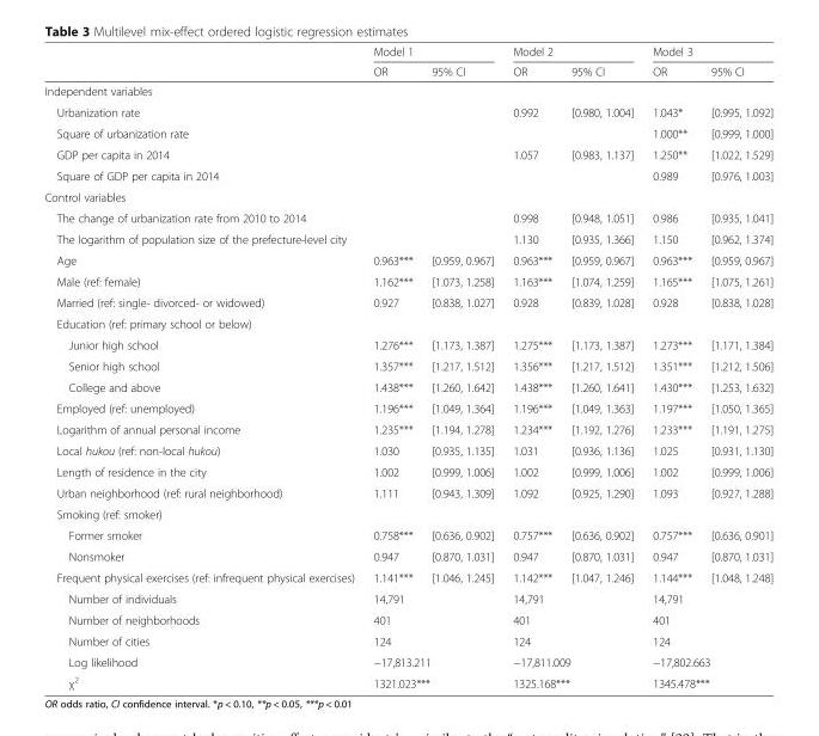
<table><thead><tr><td rowspan="2"></td><td colspan="2">Model 1</td><td colspan="2">Model 2</td><td colspan="2">Model 3</td></tr><tr><td>OR</td><td>95% CI</td><td>OR</td><td>95% CI</td><td>OR</td><td>95% CI</td></tr></thead><tbody><tr><td colspan="7">Independent variables</td></tr><tr><td>Urbanization rate</td><td></td><td></td><td>0.992</td><td>[0.980, 1.004]</td><td>1.043*</td><td>[0.995, 1.092]</td></tr><tr><td>Square of urbanization rate</td><td></td><td></td><td></td><td></td><td>1.000**</td><td>[0.999, 1.000]</td></tr><tr><td>GDP per capita in 2014</td><td></td><td></td><td>1.057</td><td>[0.983, 1.137]</td><td>1.250**</td><td>[1.022, 1.529]</td></tr><tr><td>Square of GDP per capita in 2014</td><td></td><td></td><td></td><td></td><td>0.989</td><td>[0.976, 1.003]</td></tr><tr><td colspan="7">Control variables</td></tr><tr><td>The change of urbanization rate from 2010 to 2014</td><td></td><td></td><td>0.998</td><td>[0.948, 1.051]</td><td>0.986</td><td>[0.935, 1.041]</td></tr><tr><td>The logarithm of population size of the prefecture-level city</td><td></td><td></td><td>1.130</td><td>[0.935, 1.366]</td><td>1.150</td><td>[0.962, 1.374]</td></tr><tr><td>Age</td><td>0.963***</td><td>[0.959, 0.967]</td><td>0.963***</td><td>[0.959, 0.967]</td><td>0.963***</td><td>[0.959, 0.967]</td></tr><tr><td>Male (ref: female)</td><td>1.162***</td><td>[1.073, 1.258]</td><td>1.163***</td><td>[1.074, 1.259]</td><td>1.165***</td><td>[1.075, 1.261]</td></tr><tr><td>Married (ref: single- divorced- or widowed)</td><td>0.927</td><td>[0.838, 1.027]</td><td>0.928</td><td>[0.839, 1.028]</td><td>0.928</td><td>[0.838, 1.028]</td></tr><tr><td colspan="7">Education (ref: primary school or below)</td></tr><tr><td>Junior high school</td><td>1.276***</td><td>[1.173, 1.387]</td><td>1.275***</td><td>[1.173, 1.387]</td><td>1.273***</td><td>[1.171, 1.384]</td></tr><tr><td>Senior high school</td><td>1.357***</td><td>[1.217, 1.512]</td><td>1.356***</td><td>[1.217, 1.512]</td><td>1.351***</td><td>[1.212, 1.506]</td></tr><tr><td>College and above</td><td>1.438***</td><td>[1.260, 1.642]</td><td>1.438***</td><td>[1.260, 1.641]</td><td>1.430***</td><td>[1.253, 1.632]</td></tr><tr><td>Employed (ref: unemployed)</td><td>1.196***</td><td>[1.049, 1.364]</td><td>1.196***</td><td>[1.049, 1.363]</td><td>1.197***</td><td>[1.050, 1.365]</td></tr><tr><td>Logarithm of annual personal income</td><td>1.235***</td><td>[1.194, 1.278]</td><td>1.234***</td><td>[1.192, 1.276]</td><td>1.233***</td><td>[1.191, 1.275]</td></tr><tr><td>Local hukou (ref: non-local hukou)</td><td>1.030</td><td>[0.935, 1.135]</td><td>1.031</td><td>[0.936, 1.136]</td><td>1.025</td><td>[0.931, 1.130]</td></tr><tr><td>Length of residence in the city</td><td>1.002</td><td>[0.999, 1.006]</td><td>1.002</td><td>[0.999, 1.006]</td><td>1.002</td><td>[0.999, 1.006]</td></tr><tr><td>Urban neighborhood (ref: rural neighborhood)</td><td>1.111</td><td>[0.943, 1.309]</td><td>1.092</td><td>[0.925, 1.290]</td><td>1.093</td><td>[0.927, 1.288]</td></tr><tr><td colspan="7">Smoking (ref: smoker)</td></tr><tr><td>Former smoker</td><td>0.758***</td><td>[0.636, 0.902]</td><td>0.757***</td><td>[0.636, 0.902]</td><td>0.757***</td><td>[0.636, 0.901]</td></tr><tr><td>Nonsmoker</td><td>0.947</td><td>[0.870, 1.031]</td><td>0.947</td><td>[0.870, 1.031]</td><td>0.947</td><td>[0.870, 1.031]</td></tr><tr><td>Frequent physical exercises (ref: infrequent physical exercises)</td><td>1.141***</td><td>[1.046, 1.245]</td><td>1.142***</td><td>[1.047, 1.246]</td><td>1.144***</td><td>[1.048, 1.248]</td></tr><tr><td>Number of individuals</td><td colspan="2">14,791</td><td colspan="2">14,791</td><td colspan="2">14,791</td></tr><tr><td>Number of neighborhoods</td><td colspan="2">401</td><td colspan="2">401</td><td colspan="2">401</td></tr><tr><td>Number of cities</td><td colspan="2">124</td><td colspan="2">124</td><td colspan="2">124</td></tr><tr><td>Log likelihood</td><td colspan="2">−17,813.211</td><td colspan="2">−17,811.009</td><td colspan="2">−17,802.663</td></tr><tr><td>χ<sup>2</sup></td><td colspan="2">1321.023***</td><td colspan="2">1325.168***</td><td colspan="2">1345.478***</td></tr></tbody></table>